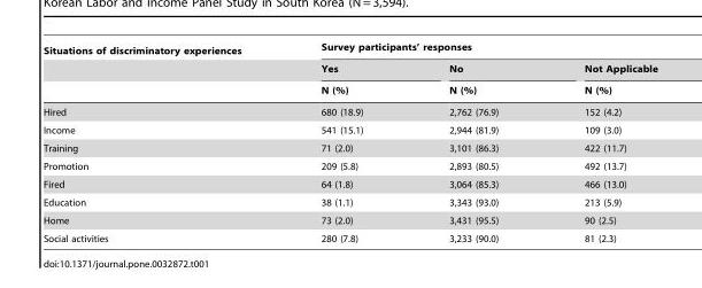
<table><thead><tr><td rowspan="3">Situations of discriminatory experiences</td><td colspan="3">Survey participants’ responses</td></tr><tr><td rowspan="2">Yes N (%)</td><td rowspan="2">No N (%)</td><td rowspan="2">Not Applicable N (%)</td></tr><tr></tr></thead><tbody><tr><td>Hired</td><td>680 (18.9)</td><td>2,762 (76.9)</td><td>152 (4.2)</td></tr><tr><td>Income</td><td>541 (15.1)</td><td>2,944 (81.9)</td><td>109 (3.0)</td></tr><tr><td>Training</td><td>71 (2.0)</td><td>3,101 (86.3)</td><td>422 (11.7)</td></tr><tr><td>Promotion</td><td>209 (5.8)</td><td>2,893 (80.5)</td><td>492 (13.7)</td></tr><tr><td>Fired</td><td>64 (1.8)</td><td>3,064 (85.3)</td><td>466 (13.0)</td></tr><tr><td>Education</td><td>38 (1.1)</td><td>3,343 (93.0)</td><td>213 (5.9)</td></tr><tr><td>Home</td><td>73 (2.0)</td><td>3,431 (95.5)</td><td>90 (2.5)</td></tr><tr><td>Social activities</td><td>280 (7.8)</td><td>3,233 (90.0)</td><td>81 (2.3)</td></tr></tbody></table>